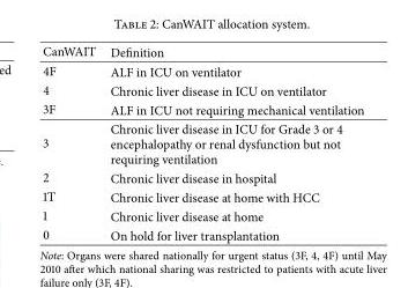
<table><thead><tr><td>CanWAIT</td><td>Definition</td></tr></thead><tbody><tr><td>4F</td><td>ALF in ICU on ventilator</td></tr><tr><td>4</td><td>Chronic liver disease in ICU on ventilator</td></tr><tr><td>3F</td><td>ALF in ICU not requiring mechanical ventilation</td></tr><tr><td>3</td><td>Chronic liver disease in ICU for Grade 3 or 4 encephalopathy or renal dysfunction but not requiring ventilation</td></tr><tr><td>2</td><td>Chronic liver disease in hospital</td></tr><tr><td>1T</td><td>Chronic liver disease at home with HCC</td></tr><tr><td>1</td><td>Chronic liver disease at home</td></tr><tr><td>0</td><td>On hold for liver transplantation</td></tr></tbody></table>